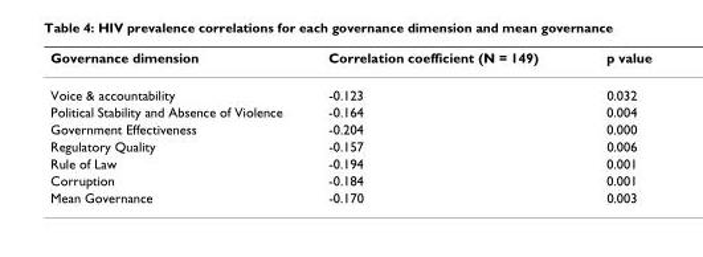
<table><thead><tr><td>Governance dimension</td><td>Correlation coefficient (N = 149)</td><td>p value</td></tr></thead><tbody><tr><td>Voice &amp; accountability</td><td>-0.123</td><td>0.032</td></tr><tr><td>Political Stability and Absence of Violence</td><td>-0.164</td><td>0.004</td></tr><tr><td>Government Effectiveness</td><td>-0.204</td><td>0.000</td></tr><tr><td>Regulatory Quality</td><td>-0.157</td><td>0.006</td></tr><tr><td>Rule of Law</td><td>-0.194</td><td>0.001</td></tr><tr><td>Corruption</td><td>-0.184</td><td>0.001</td></tr><tr><td>Mean Governance</td><td>-0.170</td><td>0.003</td></tr></tbody></table>